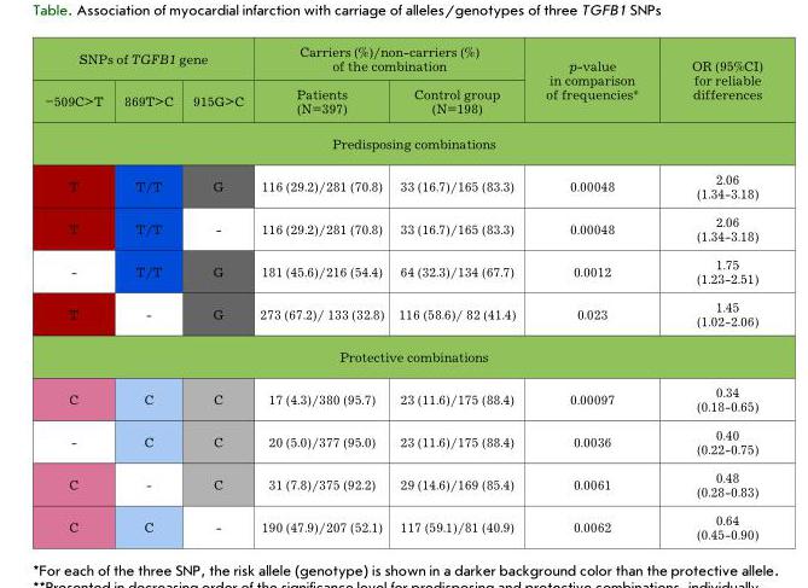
<table><thead><tr><td colspan="3">SnPs of TGFB1 gene</td><td colspan="2">carriers (%)/non-carriers (%) of the combination</td><td rowspan="2">p-value in comparison of frequencies*</td><td rowspan="2">Or (95%cI) for reliable differences</td></tr><tr><td>–509c&gt;t</td><td>869t&gt;c</td><td>915G&gt;c</td><td>Patients (n=397)</td><td>control group (n=198)</td></tr></thead><tbody><tr><td colspan="7">Predisposing combinations</td></tr><tr><td>t</td><td>t/t</td><td>G</td><td>116 (29.2)/281 (70.8)</td><td>33 (16.7)/165 (83.3)</td><td>0.00048</td><td>2.06 (1.34-3.18)</td></tr><tr><td>t</td><td>t/t</td><td>-</td><td>116 (29.2)/281 (70.8)</td><td>33 (16.7)/165 (83.3)</td><td>0.00048</td><td>2.06 (1.34-3.18)</td></tr><tr><td>-</td><td>t/t</td><td>G</td><td>181 (45.6)/216 (54.4)</td><td>64 (32.3)/134 (67.7)</td><td>0.0012</td><td>1.75 (1.23-2.51)</td></tr><tr><td>t</td><td>-</td><td>G</td><td>273 (67.2)/ 133 (32.8)</td><td>116 (58.6)/ 82 (41.4)</td><td>0.023</td><td>1.45 (1.02-2.06)</td></tr><tr><td colspan="7">Protective combinations</td></tr><tr><td>c</td><td>c</td><td>c</td><td>17 (4.3)/380 (95.7)</td><td>23 (11.6)/175 (88.4)</td><td>0.00097</td><td>0.34 (0.18-0.65)</td></tr><tr><td>-</td><td>c</td><td>c</td><td>20 (5.0)/377 (95.0)</td><td>23 (11.6)/175 (88.4)</td><td>0.0036</td><td>0.40 (0.22-0.75)</td></tr><tr><td>c</td><td>-</td><td>c</td><td>31 (7.8)/375 (92.2)</td><td>29 (14.6)/169 (85.4)</td><td>0.0061</td><td>0.48 (0.28-0.83)</td></tr><tr><td>c</td><td>c</td><td>-</td><td>190 (47.9)/207 (52.1)</td><td>117 (59.1)/81 (40.9)</td><td>0.0062</td><td>0.64 (0.45-0.90)</td></tr></tbody></table>